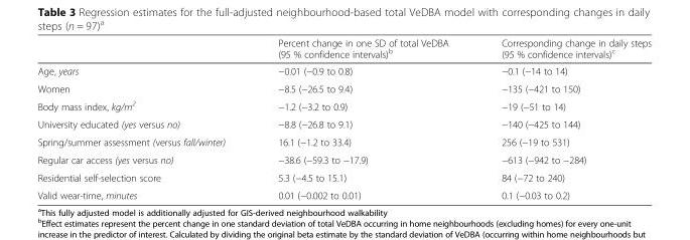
<table><thead><tr><td></td><td>Percent change in one SD of total VeDBA (95 % confidence intervals)<sup>b</sup></td><td>Corresponding change in daily steps (95 % confidence intervals)<sup>c</sup></td></tr></thead><tbody><tr><td>Age, years</td><td>−0.01 (−0.9 to 0.8)</td><td>−0.1 (−14 to 14)</td></tr><tr><td>Women</td><td>−8.5 (−26.5 to 9.4)</td><td>−135 (−421 to 150)</td></tr><tr><td>Body mass index, kg/m<sup>2</sup></td><td>−1.2 (−3.2 to 0.9)</td><td>−19 (−51 to 14)</td></tr><tr><td>University educated (yes versus no)</td><td>−8.8 (−26.8 to 9.1)</td><td>−140 (−425 to 144)</td></tr><tr><td>Spring/summer assessment (versus fall/winter)</td><td>16.1 (−1.2 to 33.4)</td><td>256 (−19 to 531)</td></tr><tr><td>Regular car access (yes versus no)</td><td>−38.6 (−59.3 to −17.9)</td><td>−613 (−942 to −284)</td></tr><tr><td>Residential self-selection score</td><td>5.3 (−4.5 to 15.1)</td><td>84 (−72 to 240)</td></tr><tr><td>Valid wear-time, minutes</td><td>0.01 (−0.002 to 0.01)</td><td>0.1 (−0.03 to 0.2)</td></tr></tbody></table>